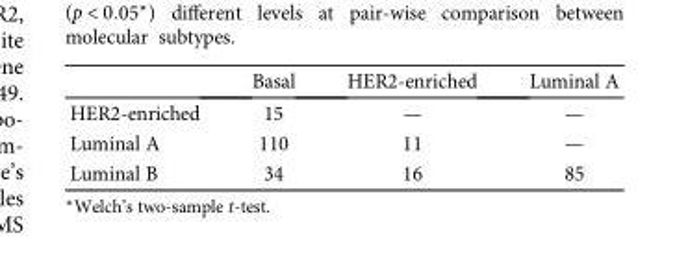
<table><thead><tr><td></td><td>Basal</td><td>HER2-enriched</td><td>Luminal A</td></tr></thead><tbody><tr><td>HER2-enriched</td><td>15</td><td>—</td><td>—</td></tr><tr><td>Luminal A</td><td>110</td><td>11</td><td>—</td></tr><tr><td>Luminal B</td><td>34</td><td>16</td><td>85</td></tr></tbody></table>